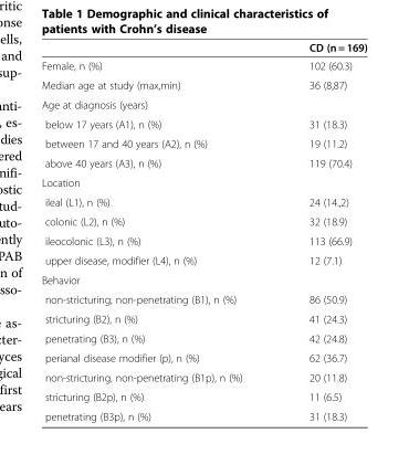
<table><thead><tr><td></td><td>CD (n = 169)</td></tr></thead><tbody><tr><td>Female, n (%)</td><td>102 (60.3)</td></tr><tr><td>Median age at study (max,min)</td><td>36 (8,87)</td></tr><tr><td colspan="2">Age at diagnosis (years)</td></tr><tr><td>below 17 years (A1), n (%)</td><td>31 (18.3)</td></tr><tr><td>between 17 and 40 years (A2), n (%)</td><td>19 (11.2)</td></tr><tr><td>above 40 years (A3), n (%)</td><td>119 (70.4)</td></tr><tr><td colspan="2">Location</td></tr><tr><td>ileal (L1), n (%)</td><td>24 (14.,2)</td></tr><tr><td>colonic (L2), n (%)</td><td>32 (18.9)</td></tr><tr><td>ileocolonic (L3), n (%)</td><td>113 (66.9)</td></tr><tr><td>upper disease, modifier (L4), n (%)</td><td>12 (7.1)</td></tr><tr><td colspan="2">Behavior</td></tr><tr><td>non-stricturing, non-penetrating (B1), n (%)</td><td>86 (50.9)</td></tr><tr><td>stricturing (B2), n (%)</td><td>41 (24.3)</td></tr><tr><td>penetrating (B3), n (%)</td><td>42 (24.8)</td></tr><tr><td>perianal disease modifier (p), n (%)</td><td>62 (36.7)</td></tr><tr><td>non-stricturing, non-penetrating (B1p), n (%)</td><td>20 (11.8)</td></tr><tr><td>stricturing (B2p), n (%)</td><td>11 (6.5)</td></tr><tr><td>penetrating (B3p), n (%)</td><td>31 (18.3)</td></tr></tbody></table>